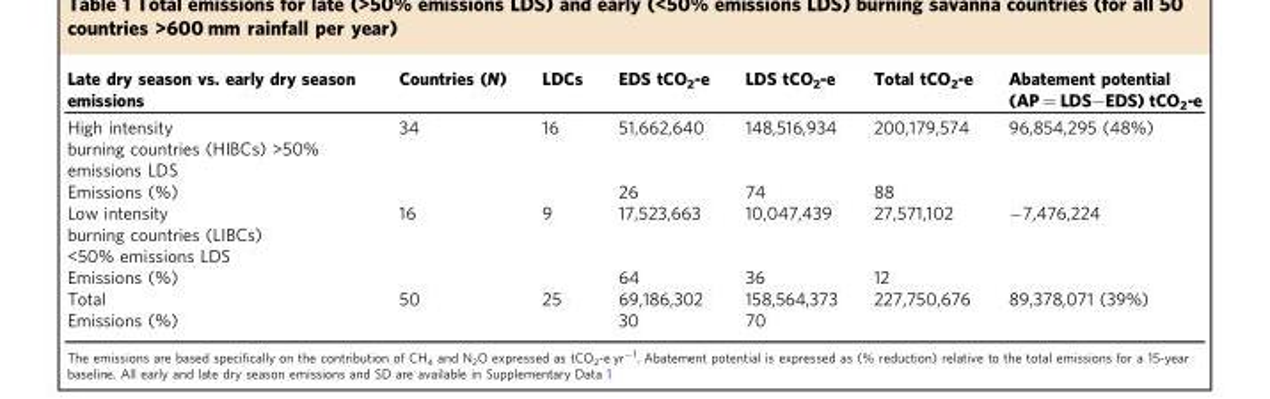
<table><thead><tr><td>Late dry season vs. early dry season emissions</td><td>Countries (N)</td><td>LDCs</td><td>EDS tCO<sub>2</sub>-e</td><td>LDS tCO<sub>2</sub>-e</td><td>Total tCO<sub>2</sub>-e</td><td>Abatement potential (AP = LDS−EDS) tCO<sub>2</sub>-e</td></tr></thead><tbody><tr><td>High intensity burning countries (HIBCs) &gt;50% emissions LDS</td><td>34</td><td>16</td><td>51,662,640</td><td>148,516,934</td><td>200,179,574</td><td>96,854,295 (48%)</td></tr><tr><td>Emissions (%)</td><td></td><td></td><td>26</td><td>74</td><td>88</td><td></td></tr><tr><td>Low intensity burning countries (LIBCs) &lt;50% emissions LDS</td><td>16</td><td>9</td><td>17,523,663</td><td>10,047,439</td><td>27,571,102</td><td>−7,476,224</td></tr><tr><td>Emissions (%)</td><td></td><td></td><td>64</td><td>36</td><td>12</td><td></td></tr><tr><td>Total</td><td>50</td><td>25</td><td>69,186,302</td><td>158,564,373</td><td>227,750,676</td><td>89,378,071 (39%)</td></tr><tr><td>Emissions (%)</td><td></td><td></td><td>30</td><td>70</td><td></td><td></td></tr></tbody></table>